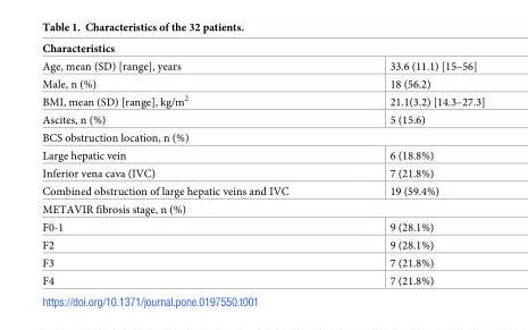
<table><thead><tr><td colspan="2">Characteristics</td></tr><tr><td>Age, mean (SD) [range], years</td><td>33.6 (11.1) [15–56]</td></tr></thead><tbody><tr><td>Male, n (%)</td><td>18 (56.2)</td></tr><tr><td>BMI, mean (SD) [range], kg/m<sup>2</sup></td><td>21.1(3.2) [14.3–27.3]</td></tr><tr><td>Ascites, n (%)</td><td>5 (15.6)</td></tr><tr><td colspan="2">BCS obstruction location, n (%)</td></tr><tr><td>Large hepatic vein</td><td>6 (18.8%)</td></tr><tr><td>Inferior vena cava (IVC)</td><td>7 (21.8%)</td></tr><tr><td>Combined obstruction of large hepatic veins and IVC</td><td>19 (59.4%)</td></tr><tr><td colspan="2">METAVIR fibrosis stage, n (%)</td></tr><tr><td>F0-1</td><td>9 (28.1%)</td></tr><tr><td>F2</td><td>9 (28.1%)</td></tr><tr><td>F3</td><td>7 (21.8%)</td></tr><tr><td>F4</td><td>7 (21.8%)</td></tr></tbody></table>